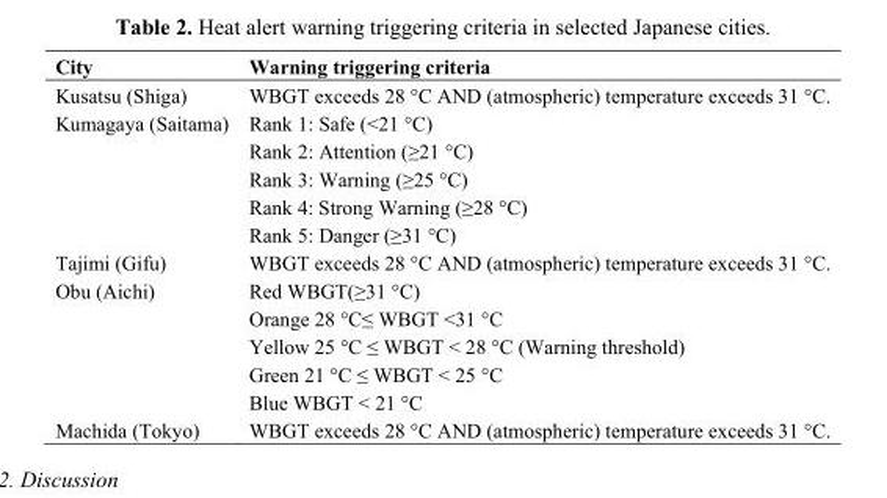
<table><thead><tr><td>City</td><td>Warning triggering criteria</td></tr></thead><tbody><tr><td>Kusatsu (Shiga)</td><td>WBGT exceeds 28 °C AND (atmospheric) temperature exceeds 31 °C.</td></tr><tr><td rowspan="5">Kumagaya (Saitama)</td><td>Rank 1: Safe (&lt;21 °C)</td></tr><tr><td>Rank 2: Attention (≥21 °C)</td></tr><tr><td>Rank 3: Warning (≥25 °C)</td></tr><tr><td>Rank 4: Strong Warning (≥28 °C)</td></tr><tr><td>Rank 5: Danger (≥31 °C)</td></tr><tr><td>Tajimi (Gifu)</td><td>WBGT exceeds 28 °C AND (atmospheric) temperature exceeds 31 °C.</td></tr><tr><td rowspan="5">Obu (Aichi)</td><td>Red WBGT(≥31 °C)</td></tr><tr><td>Orange 28 °C≤ WBGT &lt;31 °C</td></tr><tr><td>Yellow 25 °C ≤ WBGT &lt; 28 °C (Warning threshold)</td></tr><tr><td>Green 21 °C ≤ WBGT &lt; 25 °C</td></tr><tr><td>Blue WBGT &lt; 21 °C</td></tr><tr><td>Machida (Tokyo)</td><td>WBGT exceeds 28 °C AND (atmospheric) temperature exceeds 31 °C.</td></tr></tbody></table>